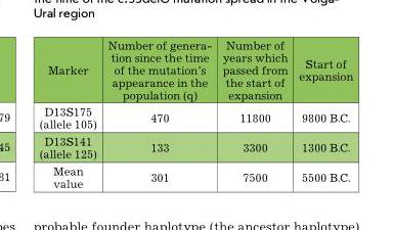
<table><thead><tr><td>Marker</td><td>Number of genera- tion since the time of the mutation’s appearance in the population (q)</td><td>Number of years which passed from the start of expansion</td><td>Start of expansion</td></tr></thead><tbody><tr><td>D13S175 (allele 105)</td><td>470</td><td>11800</td><td>9800 B.C.</td></tr><tr><td>D13S141 (allele 125)</td><td>133</td><td>3300</td><td>1300 B.C.</td></tr><tr><td>Mean value</td><td>301</td><td>7500</td><td>5500 B.C.</td></tr></tbody></table>